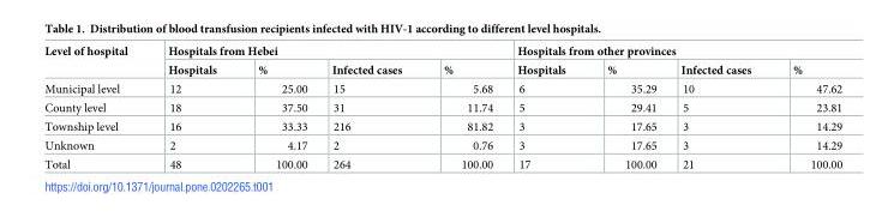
<table><thead><tr><td rowspan="2">Level of hospital</td><td colspan="4">Hospitals from Hebei</td><td colspan="4">Hospitals from other provinces</td></tr><tr><td>Hospitals</td><td>%</td><td>Infected cases</td><td>%</td><td>Hospitals</td><td>%</td><td>Infected cases</td><td>%</td></tr></thead><tbody><tr><td>Municipal level</td><td>12</td><td>25.00</td><td>15</td><td>5.68</td><td>6</td><td>35.29</td><td>10</td><td>47.62</td></tr><tr><td>County level</td><td>18</td><td>37.50</td><td>31</td><td>11.74</td><td>5</td><td>29.41</td><td>5</td><td>23.81</td></tr><tr><td>Township level</td><td>16</td><td>33.33</td><td>216</td><td>81.82</td><td>3</td><td>17.65</td><td>3</td><td>14.29</td></tr><tr><td>Unknown</td><td>2</td><td>4.17</td><td>2</td><td>0.76</td><td>3</td><td>17.65</td><td>3</td><td>14.29</td></tr><tr><td>Total</td><td>48</td><td>100.00</td><td>264</td><td>100.00</td><td>17</td><td>100.00</td><td>21</td><td>100.00</td></tr></tbody></table>